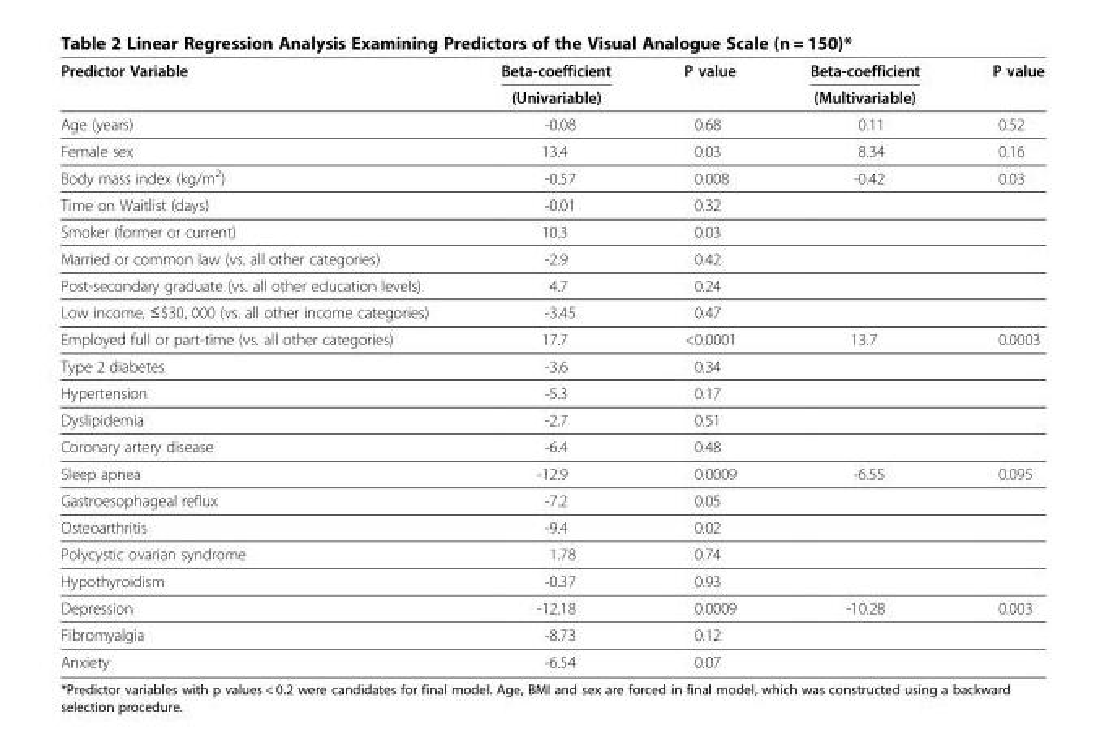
<table><thead><tr><td rowspan="2">Predictor Variable</td><td rowspan="2">Beta-coefficient (Univariable)</td><td rowspan="2">P value</td><td rowspan="2">Beta-coefficient (Multivariable)</td><td rowspan="2">P value</td></tr><tr></tr></thead><tbody><tr><td>Age (years)</td><td>-0.08</td><td>0.68</td><td>0.11</td><td>0.52</td></tr><tr><td>Female sex</td><td>13.4</td><td>0.03</td><td>8.34</td><td>0.16</td></tr><tr><td>Body mass index (kg/m<sup>2</sup>)</td><td>-0.57</td><td>0.008</td><td>-0.42</td><td>0.03</td></tr><tr><td>Time on Waitlist (days)</td><td>-0.01</td><td>0.32</td><td></td><td></td></tr><tr><td>Smoker (former or current)</td><td>10.3</td><td>0.03</td><td></td><td></td></tr><tr><td>Married or common law (vs. all other categories)</td><td>-2.9</td><td>0.42</td><td></td><td></td></tr><tr><td>Post-secondary graduate (vs. all other education levels)</td><td>4.7</td><td>0.24</td><td></td><td></td></tr><tr><td>Low income, ≤$30, 000 (vs. all other income categories)</td><td>-3.45</td><td>0.47</td><td></td><td></td></tr><tr><td>Employed full or part-time (vs. all other categories)</td><td>17.7</td><td>&lt;0.0001</td><td>13.7</td><td>0.0003</td></tr><tr><td>Type 2 diabetes</td><td>-3.6</td><td>0.34</td><td></td><td></td></tr><tr><td>Hypertension</td><td>-5.3</td><td>0.17</td><td></td><td></td></tr><tr><td>Dyslipidemia</td><td>-2.7</td><td>0.51</td><td></td><td></td></tr><tr><td>Coronary artery disease</td><td>-6.4</td><td>0.48</td><td></td><td></td></tr><tr><td>Sleep apnea</td><td>-12.9</td><td>0.0009</td><td>-6.55</td><td>0.095</td></tr><tr><td>Gastroesophageal reflux</td><td>-7.2</td><td>0.05</td><td></td><td></td></tr><tr><td>Osteoarthritis</td><td>-9.4</td><td>0.02</td><td></td><td></td></tr><tr><td>Polycystic ovarian syndrome</td><td>1.78</td><td>0.74</td><td></td><td></td></tr><tr><td>Hypothyroidism</td><td>-0.37</td><td>0.93</td><td></td><td></td></tr><tr><td>Depression</td><td>-12.18</td><td>0.0009</td><td>-10.28</td><td>0.003</td></tr><tr><td>Fibromyalgia</td><td>-8.73</td><td>0.12</td><td></td><td></td></tr><tr><td>Anxiety</td><td>-6.54</td><td>0.07</td><td></td><td></td></tr></tbody></table>